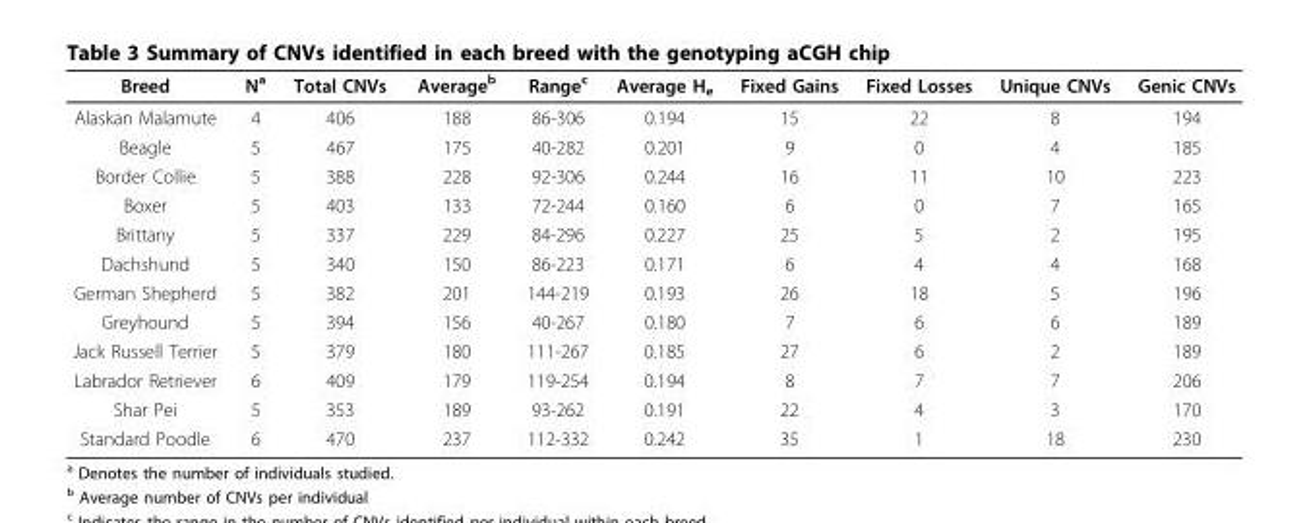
<table><thead><tr><td>Breed</td><td>N<sup>a</sup></td><td>Total CNVs</td><td>Average<sup>b</sup></td><td>Range<sup>c</sup></td><td>Average H<sub>e</sub></td><td>Fixed Gains</td><td>Fixed Losses</td><td>Unique CNVs</td><td>Genic CNVs</td></tr></thead><tbody><tr><td>Alaskan Malamute</td><td>4</td><td>406</td><td>188</td><td>86-306</td><td>0.194</td><td>15</td><td>22</td><td>8</td><td>194</td></tr><tr><td>Beagle</td><td>5</td><td>467</td><td>175</td><td>40-282</td><td>0.201</td><td>9</td><td>0</td><td>4</td><td>185</td></tr><tr><td>Border Collie</td><td>5</td><td>388</td><td>228</td><td>92-306</td><td>0.244</td><td>16</td><td>11</td><td>10</td><td>223</td></tr><tr><td>Boxer</td><td>5</td><td>403</td><td>133</td><td>72-244</td><td>0.160</td><td>6</td><td>0</td><td>7</td><td>165</td></tr><tr><td>Brittany</td><td>5</td><td>337</td><td>229</td><td>84-296</td><td>0.227</td><td>25</td><td>5</td><td>2</td><td>195</td></tr><tr><td>Dachshund</td><td>5</td><td>340</td><td>150</td><td>86-223</td><td>0.171</td><td>6</td><td>4</td><td>4</td><td>168</td></tr><tr><td>German Shepherd</td><td>5</td><td>382</td><td>201</td><td>144-219</td><td>0.193</td><td>26</td><td>18</td><td>5</td><td>196</td></tr><tr><td>Greyhound</td><td>5</td><td>394</td><td>156</td><td>40-267</td><td>0.180</td><td>7</td><td>6</td><td>6</td><td>189</td></tr><tr><td>Jack Russell Terrier</td><td>5</td><td>379</td><td>180</td><td>111-267</td><td>0.185</td><td>27</td><td>6</td><td>2</td><td>189</td></tr><tr><td>Labrador Retriever</td><td>6</td><td>409</td><td>179</td><td>119-254</td><td>0.194</td><td>8</td><td>7</td><td>7</td><td>206</td></tr><tr><td>Shar Pei</td><td>5</td><td>353</td><td>189</td><td>93-262</td><td>0.191</td><td>22</td><td>4</td><td>3</td><td>170</td></tr><tr><td>Standard Poodle</td><td>6</td><td>470</td><td>237</td><td>112-332</td><td>0.242</td><td>35</td><td>1</td><td>18</td><td>230</td></tr></tbody></table>